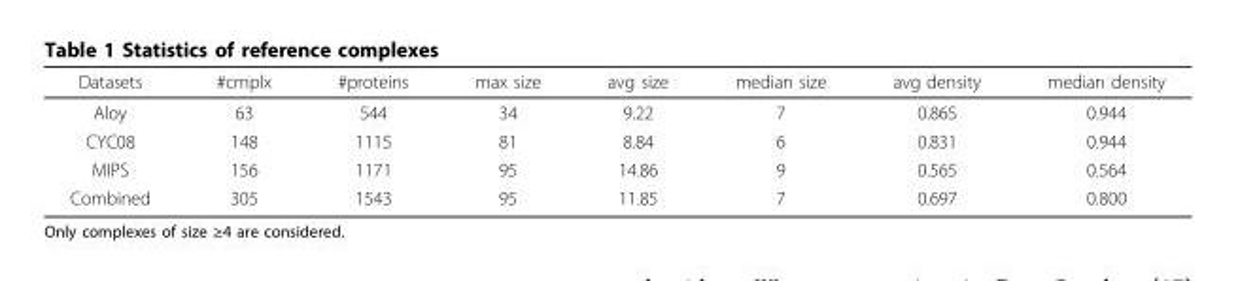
<table><thead><tr><td>Datasets</td><td>#cmplx</td><td>#proteins</td><td>max size</td><td>avg size</td><td>median size</td><td>avg density</td><td>median density</td></tr></thead><tbody><tr><td>Aloy</td><td>63</td><td>544</td><td>34</td><td>9.22</td><td>7</td><td>0.865</td><td>0.944</td></tr><tr><td>CYC08</td><td>148</td><td>1115</td><td>81</td><td>8.84</td><td>6</td><td>0.831</td><td>0.944</td></tr><tr><td>MIPS</td><td>156</td><td>1171</td><td>95</td><td>14.86</td><td>9</td><td>0.565</td><td>0.564</td></tr><tr><td>Combined</td><td>305</td><td>1543</td><td>95</td><td>11.85</td><td>7</td><td>0.697</td><td>0.800</td></tr></tbody></table>